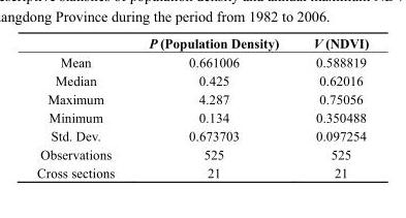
<table><thead><tr><td></td><td>P (Population Density)</td><td>V (NDVI)</td></tr></thead><tbody><tr><td>Mean</td><td>0.661006</td><td>0.588819</td></tr><tr><td>Median</td><td>0.425</td><td>0.62016</td></tr><tr><td>Maximum</td><td>4.287</td><td>0.75056</td></tr><tr><td>Minimum</td><td>0.134</td><td>0.350488</td></tr><tr><td>Std. Dev.</td><td>0.673703</td><td>0.097254</td></tr><tr><td>Observations</td><td>525</td><td>525</td></tr><tr><td>Cross sections</td><td>21</td><td>21</td></tr></tbody></table>